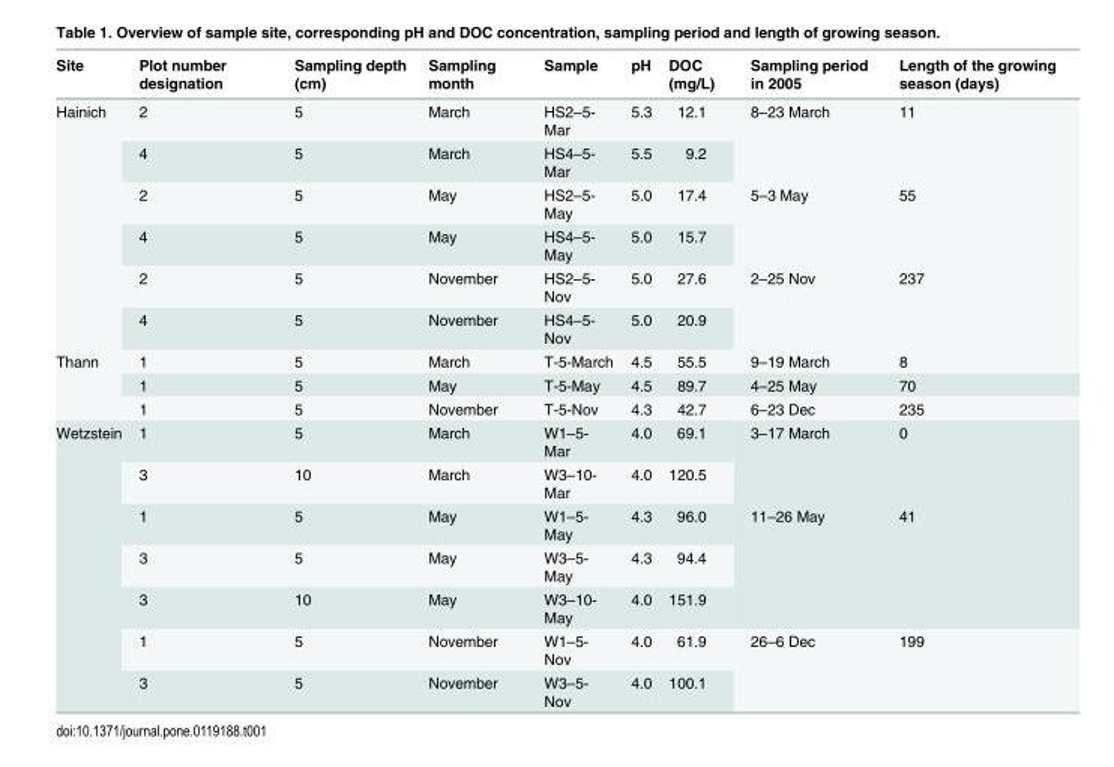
<table><thead><tr><td>Site</td><td>Plot number designation</td><td>Sampling depth (cm)</td><td>Sampling month</td><td>Sample</td><td>pH</td><td>DOC (mg/L)</td><td>Sampling period in 2005</td><td>Length of the growing season (days)</td></tr></thead><tbody><tr><td rowspan="6">Hainich</td><td>2</td><td>5</td><td>March</td><td>HS2–5- Mar</td><td>5.3</td><td>12.1</td><td rowspan="2">8–23 March</td><td rowspan="2">11</td></tr><tr><td>4</td><td>5</td><td>March</td><td>HS4–5- Mar</td><td>5.5</td><td>9.2</td></tr><tr><td>2</td><td>5</td><td>May</td><td>HS2–5- May</td><td>5.0</td><td>17.4</td><td rowspan="2">5–3 May</td><td rowspan="2">55</td></tr><tr><td>4</td><td>5</td><td>May</td><td>HS4–5- May</td><td>5.0</td><td>15.7</td></tr><tr><td>2</td><td>5</td><td>November</td><td>HS2–5- Nov</td><td>5.0</td><td>27.6</td><td rowspan="2">2–25 Nov</td><td rowspan="2">237</td></tr><tr><td>4</td><td>5</td><td>November</td><td>HS4–5- Nov</td><td>5.0</td><td>20.9</td></tr><tr><td rowspan="3">Thann</td><td>1</td><td>5</td><td>March</td><td>T-5-March</td><td>4.5</td><td>55.5</td><td>9–19 March</td><td>8</td></tr><tr><td>1</td><td>5</td><td>May</td><td>T-5-May</td><td>4.5</td><td>89.7</td><td>4–25 May</td><td>70</td></tr><tr><td>1</td><td>5</td><td>November</td><td>T-5-Nov</td><td>4.3</td><td>42.7</td><td>6–23 Dec</td><td>235</td></tr><tr><td rowspan="7">Wetzstein</td><td>1</td><td>5</td><td>March</td><td>W1–5- Mar</td><td>4.0</td><td>69.1</td><td rowspan="2">3–17 March</td><td rowspan="2">0</td></tr><tr><td>3</td><td>10</td><td>March</td><td>W3–10- Mar</td><td>4.0</td><td>120.5</td></tr><tr><td>1</td><td>5</td><td>May</td><td>W1–5- May</td><td>4.3</td><td>96.0</td><td rowspan="3">11–26 May</td><td rowspan="3">41</td></tr><tr><td>3</td><td>5</td><td>May</td><td>W3–5- May</td><td>4.3</td><td>94.4</td></tr><tr><td>3</td><td>10</td><td>May</td><td>W3–10- May</td><td>4.0</td><td>151.9</td></tr><tr><td>1</td><td>5</td><td>November</td><td>W1–5- Nov</td><td>4.0</td><td>61.9</td><td rowspan="2">26–6 Dec</td><td rowspan="2">199</td></tr><tr><td>3</td><td>5</td><td>November</td><td>W3–5- Nov</td><td>4.0</td><td>100.1</td></tr></tbody></table>